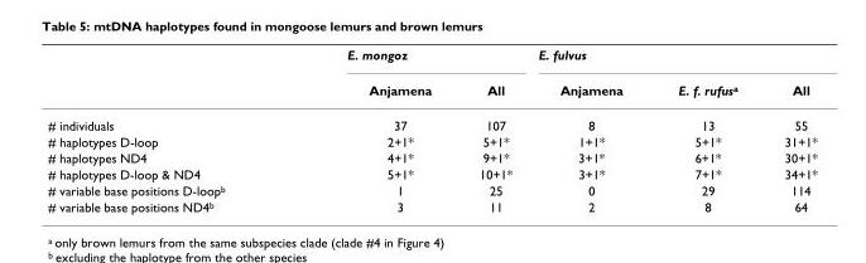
<table><thead><tr><td rowspan="2"></td><td colspan="2">E. mongoz</td><td colspan="3">E. fulvus</td></tr><tr><td>Anjamena</td><td>All</td><td>Anjamena</td><td>E. f. rufus<sup>a</sup></td><td>All</td></tr></thead><tbody><tr><td># individuals</td><td>37</td><td>107</td><td>8</td><td>13</td><td>55</td></tr><tr><td># haplotypes D-loop</td><td>2+1*</td><td>5+1*</td><td>1+1*</td><td>5+1*</td><td>31+1*</td></tr><tr><td># haplotypes ND4</td><td>4+1*</td><td>9+1*</td><td>3+1*</td><td>6+1*</td><td>30+1*</td></tr><tr><td># haplotypes D-loop &amp; ND4</td><td>5+1*</td><td>10+1*</td><td>3+1*</td><td>7+1*</td><td>34+1*</td></tr><tr><td># variable base positions D-loop<sup>b</sup></td><td>1</td><td>25</td><td>0</td><td>29</td><td>114</td></tr><tr><td># variable base positions ND4<sup>b</sup></td><td>3</td><td>11</td><td>2</td><td>8</td><td>64</td></tr></tbody></table>